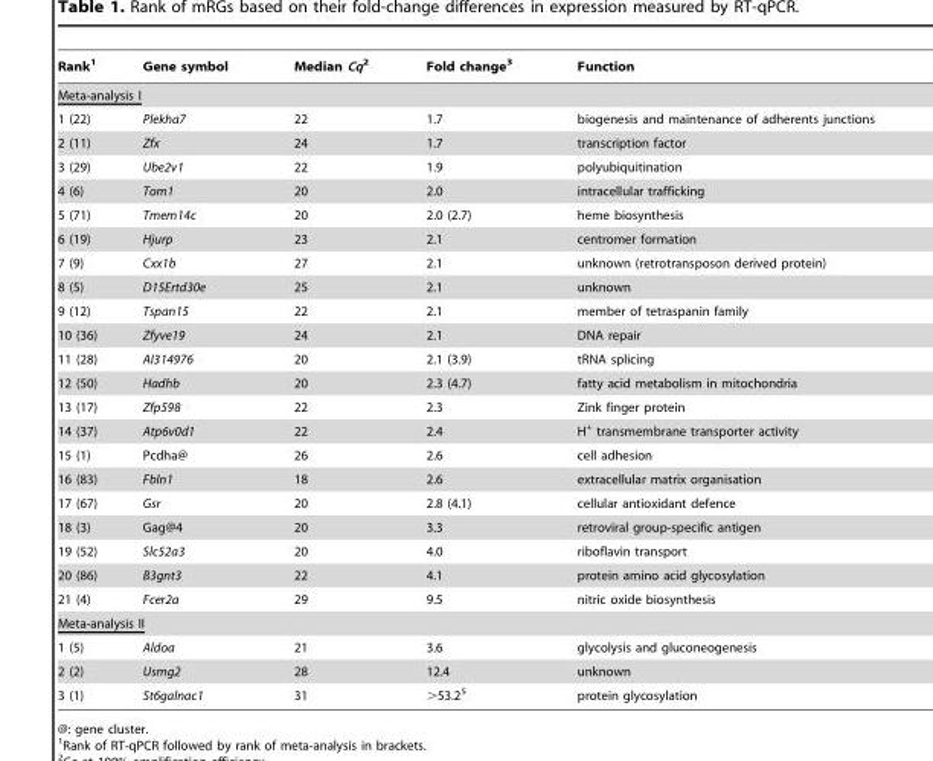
<table><thead><tr><td>Rank<sup>1</sup></td><td>Gene symbol</td><td>Median Cq2</td><td>Fold change<sup>3</sup></td><td>Function</td></tr></thead><tbody><tr><td colspan="5">Meta-analysis I</td></tr><tr><td>1 (22)</td><td>Plekha7</td><td>22</td><td>1.7</td><td>biogenesis and maintenance of adherents junctions</td></tr><tr><td>2 (11)</td><td>Zfx</td><td>24</td><td>1.7</td><td>transcription factor</td></tr><tr><td>3 (29)</td><td>Ube2v1</td><td>22</td><td>1.9</td><td>polyubiquitination</td></tr><tr><td>4 (6)</td><td>Tom1</td><td>20</td><td>2.0</td><td>intracellular trafficking</td></tr><tr><td>5 (71)</td><td>Tmem14c</td><td>20</td><td>2.0 (2.7)</td><td>heme biosynthesis</td></tr><tr><td>6 (19)</td><td>Hjurp</td><td>23</td><td>2.1</td><td>centromer formation</td></tr><tr><td>7 (9)</td><td>Cxx1b</td><td>27</td><td>2.1</td><td>unknown (retrotransposon derived protein)</td></tr><tr><td>8 (5)</td><td>D15Ertd30e</td><td>25</td><td>2.1</td><td>unknown</td></tr><tr><td>9 (12)</td><td>Tspan15</td><td>22</td><td>2.1</td><td>member of tetraspanin family</td></tr><tr><td>10 (36)</td><td>Zfyve19</td><td>24</td><td>2.1</td><td>DNA repair</td></tr><tr><td>11 (28)</td><td>AI314976</td><td>20</td><td>2.1 (3.9)</td><td>tRNA splicing</td></tr><tr><td>12 (50)</td><td>Hadhb</td><td>20</td><td>2.3 (4.7)</td><td>fatty acid metabolism in mitochondria</td></tr><tr><td>13 (17)</td><td>Zfp598</td><td>22</td><td>2.3</td><td>Zink finger protein</td></tr><tr><td>14 (37)</td><td>Atp6v0d1</td><td>22</td><td>2.4</td><td>H<sup>+</sup> transmembrane transporter activity</td></tr><tr><td>15 (1)</td><td>Pcdha@</td><td>26</td><td>2.6</td><td>cell adhesion</td></tr><tr><td>16 (83)</td><td>Fbln1</td><td>18</td><td>2.6</td><td>extracellular matrix organisation</td></tr><tr><td>17 (67)</td><td>Gsr</td><td>20</td><td>2.8 (4.1)</td><td>cellular antioxidant defence</td></tr><tr><td>18 (3)</td><td>Gag@4</td><td>20</td><td>3.3</td><td>retroviral group-specific antigen</td></tr><tr><td>19 (52)</td><td>Slc52a3</td><td>20</td><td>4.0</td><td>riboflavin transport</td></tr><tr><td>20 (86)</td><td>B3gnt3</td><td>22</td><td>4.1</td><td>protein amino acid glycosylation</td></tr><tr><td>21 (4)</td><td>Fcer2a</td><td>29</td><td>9.5</td><td>nitric oxide biosynthesis</td></tr><tr><td colspan="5">Meta-analysis II</td></tr><tr><td>1 (5)</td><td>Aldoa</td><td>21</td><td>3.6</td><td>glycolysis and gluconeogenesis</td></tr><tr><td>2 (2)</td><td>Usmg2</td><td>28</td><td>12.4</td><td>unknown</td></tr><tr><td>3 (1)</td><td>St6galnac1</td><td>31</td><td>&gt;53.2<sup>5</sup></td><td>protein glycosylation</td></tr></tbody></table>